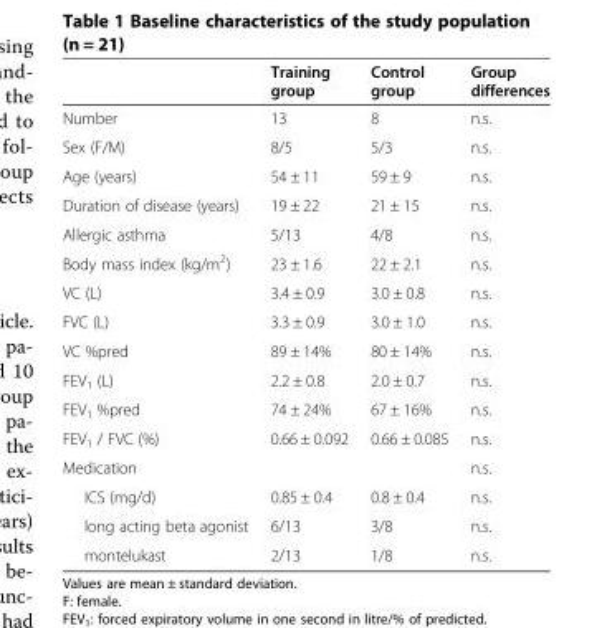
<table><thead><tr><td></td><td>Training group</td><td>Control group</td><td>Group differences</td></tr></thead><tbody><tr><td>Number</td><td>13</td><td>8</td><td>n.s.</td></tr><tr><td>Sex (F/M)</td><td>8/5</td><td>5/3</td><td>n.s.</td></tr><tr><td>Age (years)</td><td>54 ± 11</td><td>59 ± 9</td><td>n.s.</td></tr><tr><td>Duration of disease (years)</td><td>19 ± 22</td><td>21 ± 15</td><td>n.s.</td></tr><tr><td>Allergic asthma</td><td>5/13</td><td>4/8</td><td>n.s.</td></tr><tr><td>Body mass index (kg/m<sup>2</sup>)</td><td>23 ± 1.6</td><td>22 ± 2.1</td><td>n.s.</td></tr><tr><td>VC (L)</td><td>3.4 ± 0.9</td><td>3.0 ± 0.8</td><td>n.s.</td></tr><tr><td>FVC (L)</td><td>3.3 ± 0.9</td><td>3.0 ± 1.0</td><td>n.s.</td></tr><tr><td>VC %pred</td><td>89 ± 14%</td><td>80 ± 14%</td><td>n.s.</td></tr><tr><td>FEV<sub>1</sub> (L)</td><td>2.2 ± 0.8</td><td>2.0 ± 0.7</td><td>n.s.</td></tr><tr><td>FEV<sub>1</sub> %pred</td><td>74 ± 24%</td><td>67 ± 16%</td><td>n.s.</td></tr><tr><td>FEV<sub>1</sub> / FVC (%)</td><td>0.66 ± 0.092</td><td>0.66 ± 0.085</td><td>n.s.</td></tr><tr><td>Medication</td><td></td><td></td><td>n.s.</td></tr><tr><td>ICS (mg/d)</td><td>0.85 ± 0.4</td><td>0.8 ± 0.4</td><td>n.s.</td></tr><tr><td>long acting beta agonist</td><td>6/13</td><td>3/8</td><td>n.s.</td></tr><tr><td>montelukast</td><td>2/13</td><td>1/8</td><td>n.s.</td></tr></tbody></table>